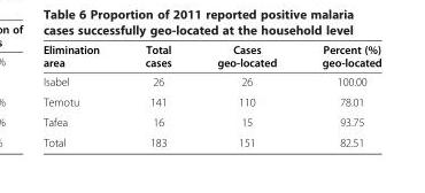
<table><thead><tr><td>Elimination area</td><td>Total cases</td><td>Cases geo-located</td><td>Percent (%) geo-located</td></tr></thead><tbody><tr><td>Isabel</td><td>26</td><td>26</td><td>100.00</td></tr><tr><td>Temotu</td><td>141</td><td>110</td><td>78.01</td></tr><tr><td>Tafea</td><td>16</td><td>15</td><td>93.75</td></tr><tr><td>Total</td><td>183</td><td>151</td><td>82.51</td></tr></tbody></table>